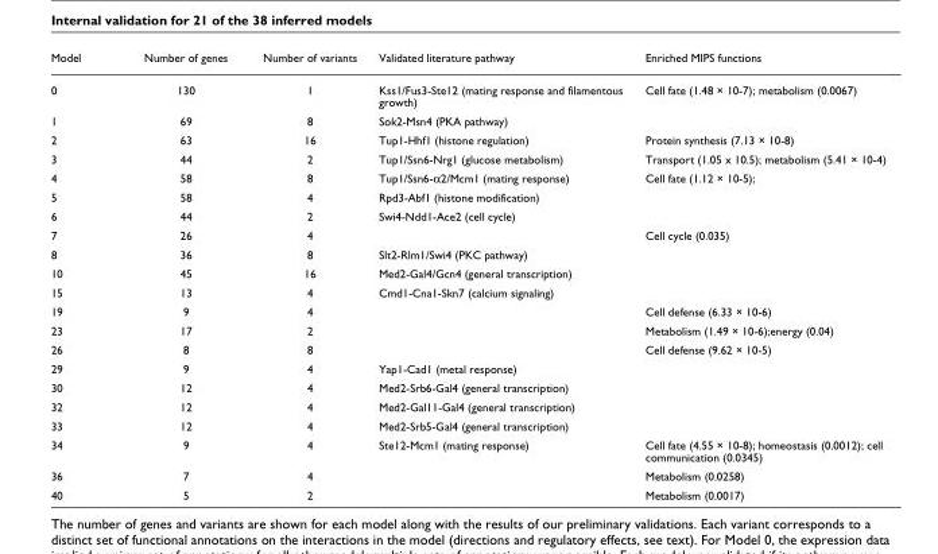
<table><thead><tr><td>Model</td><td>Number of genes</td><td>Number of variants</td><td>Validated literature pathway</td><td>Enriched MIPS functions</td></tr></thead><tbody><tr><td>0</td><td>130</td><td>1</td><td>Kss1/Fus3-Ste12 (mating response and filamentous growth)</td><td>Cell fate (1.48 × 10-7); metabolism (0.0067)</td></tr><tr><td>1</td><td>69</td><td>8</td><td>Sok2-Msn4 (PKA pathway)</td><td></td></tr><tr><td>2</td><td>63</td><td>16</td><td>Tup1-Hhf1 (histone regulation)</td><td>Protein synthesis (7.13 × 10-8)</td></tr><tr><td>3</td><td>44</td><td>2</td><td>Tup1/Ssn6-Nrg1 (glucose metabolism)</td><td>Transport (1.05 x 10.5); metabolism (5.41 × 10-4)</td></tr><tr><td>4</td><td>58</td><td>8</td><td>Tup1/Ssn6-α2/Mcm1 (mating response)</td><td>Cell fate (1.12 × 10-5);</td></tr><tr><td>5</td><td>58</td><td>4</td><td>Rpd3-Abf1 (histone modification)</td><td></td></tr><tr><td>6</td><td>44</td><td>2</td><td>Swi4-Ndd1-Ace2 (cell cycle)</td><td></td></tr><tr><td>7</td><td>26</td><td>4</td><td></td><td>Cell cycle (0.035)</td></tr><tr><td>8</td><td>36</td><td>8</td><td>Slt2-Rlm1/Swi4 (PKC pathway)</td><td></td></tr><tr><td>10</td><td>45</td><td>16</td><td>Med2-Gal4/Gcn4 (general transcription)</td><td></td></tr><tr><td>15</td><td>13</td><td>4</td><td>Cmd1-Cna1-Skn7 (calcium signaling)</td><td></td></tr><tr><td>19</td><td>9</td><td>4</td><td></td><td>Cell defense (6.33 × 10-6)</td></tr><tr><td>23</td><td>17</td><td>2</td><td></td><td>Metabolism (1.49 × 10-6);energy (0.04)</td></tr><tr><td>26</td><td>8</td><td>8</td><td></td><td>Cell defense (9.62 × 10-5)</td></tr><tr><td>29</td><td>9</td><td>4</td><td>Yap1-Cad1 (metal response)</td><td></td></tr><tr><td>30</td><td>12</td><td>4</td><td>Med2-Srb6-Gal4 (general transcription)</td><td></td></tr><tr><td>32</td><td>12</td><td>4</td><td>Med2-Gal11-Gal4 (general transcription)</td><td></td></tr><tr><td>33</td><td>12</td><td>4</td><td>Med2-Srb5-Gal4 (general transcription)</td><td></td></tr><tr><td>34</td><td>9</td><td>4</td><td>Ste12-Mcm1 (mating response)</td><td>Cell fate (4.55 × 10-8); homeostasis (0.0012); cell communication (0.0345)</td></tr><tr><td>36</td><td>7</td><td>4</td><td></td><td>Metabolism (0.0258)</td></tr><tr><td>40</td><td>5</td><td>2</td><td></td><td>Metabolism (0.0017)</td></tr></tbody></table>